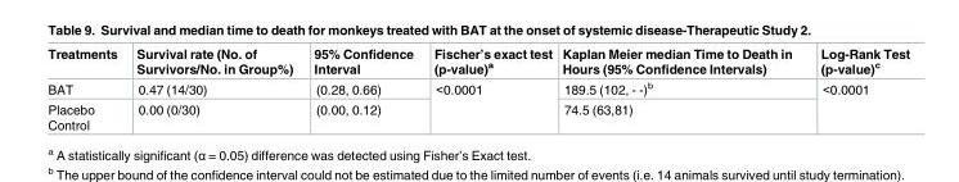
<table><thead><tr><td>Treatments</td><td>Survival rate (No. of Survivors/No. in Group%)</td><td>95% Confidence Interval</td><td>Fischer’s exact test (p-value)<sup>a</sup></td><td>Kaplan Meier median Time to Death in Hours (95% Confidence Intervals)</td><td>Log-Rank Test (p-value)<sup>c</sup></td></tr></thead><tbody><tr><td>BAT</td><td>0.47 (14/30)</td><td>(0.28, 0.66)</td><td rowspan="2">&lt;0.0001</td><td>189.5 (102, - -)<sup>b</sup></td><td rowspan="2">&lt;0.0001</td></tr><tr><td>Placebo Control</td><td>0.00 (0/30)</td><td>(0.00, 0.12)</td><td>74.5 (63,81)</td></tr></tbody></table>